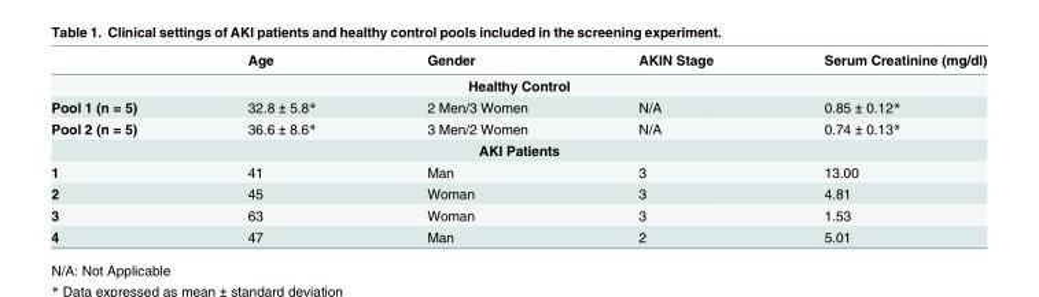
<table><thead><tr><td></td><td>Age</td><td>Gender</td><td>AKIN Stage</td><td>Serum Creatinine (mg/dl)</td></tr></thead><tbody><tr><td colspan="5">Healthy Control</td></tr><tr><td>Pool 1 (n = 5)</td><td>32.8 ± 5.8*</td><td>2 Men/3 Women</td><td>N/A</td><td>0.85 ± 0.12*</td></tr><tr><td>Pool 2 (n = 5)</td><td>36.6 ± 8.6*</td><td>3 Men/2 Women</td><td>N/A</td><td>0.74 ± 0.13*</td></tr><tr><td colspan="5">AKI Patients</td></tr><tr><td>1</td><td>41</td><td>Man</td><td>3</td><td>13.00</td></tr><tr><td>2</td><td>45</td><td>Woman</td><td>3</td><td>4.81</td></tr><tr><td>3</td><td>63</td><td>Woman</td><td>3</td><td>1.53</td></tr><tr><td>4</td><td>47</td><td>Man</td><td>2</td><td>5.01</td></tr></tbody></table>